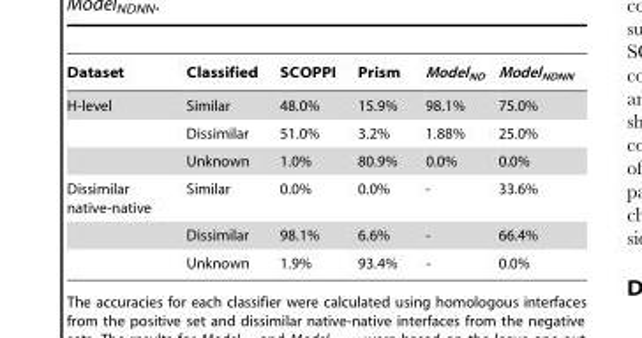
<table><thead><tr><td>Dataset</td><td>Classified</td><td>SCOPPI</td><td>Prism</td><td>Model<sub>ND</sub></td><td>Model<sub>NDNN</sub></td></tr></thead><tbody><tr><td rowspan="3">H-level</td><td>Similar</td><td>48.0%</td><td>15.9%</td><td>98.1%</td><td>75.0%</td></tr><tr><td>Dissimilar</td><td>51.0%</td><td>3.2%</td><td>1.88%</td><td>25.0%</td></tr><tr><td>Unknown</td><td>1.0%</td><td>80.9%</td><td>0.0%</td><td>0.0%</td></tr><tr><td rowspan="3">Dissimilar native-native</td><td>Similar</td><td>0.0%</td><td>0.0%</td><td>-</td><td>33.6%</td></tr><tr><td>Dissimilar</td><td>98.1%</td><td>6.6%</td><td>-</td><td>66.4%</td></tr><tr><td>Unknown</td><td>1.9%</td><td>93.4%</td><td>-</td><td>0.0%</td></tr></tbody></table>